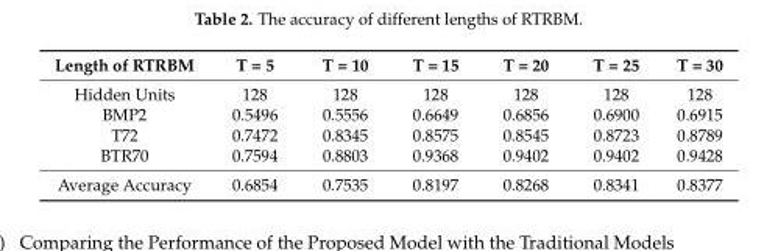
<table><thead><tr><td>Length of RTRBM</td><td>T = 5</td><td>T = 10</td><td>T = 15</td><td>T = 20</td><td>T = 25</td><td>T = 30</td></tr></thead><tbody><tr><td>Hidden Units</td><td>128</td><td>128</td><td>128</td><td>128</td><td>128</td><td>128</td></tr><tr><td>BMP2</td><td>0.5496</td><td>0.5556</td><td>0.6649</td><td>0.6856</td><td>0.6900</td><td>0.6915</td></tr><tr><td>T72</td><td>0.7472</td><td>0.8345</td><td>0.8575</td><td>0.8545</td><td>0.8723</td><td>0.8789</td></tr><tr><td>BTR70</td><td>0.7594</td><td>0.8803</td><td>0.9368</td><td>0.9402</td><td>0.9402</td><td>0.9428</td></tr><tr><td>Average Accuracy</td><td>0.6854</td><td>0.7535</td><td>0.8197</td><td>0.8268</td><td>0.8341</td><td>0.8377</td></tr></tbody></table>